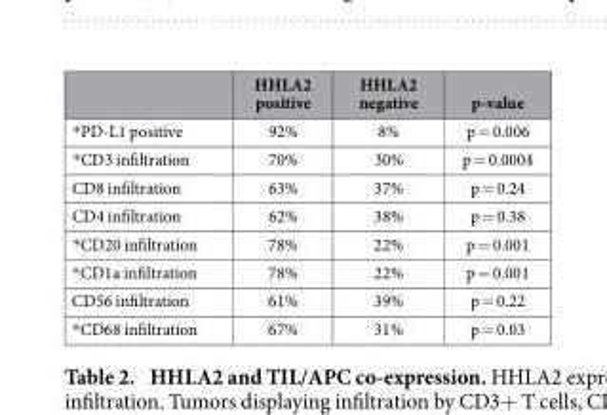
<table><thead><tr><td></td><td>HHLA2 positive</td><td>HHLA2 negative</td><td>p-value</td></tr></thead><tbody><tr><td>* PD-L1 positive</td><td>92%</td><td>8%</td><td>p = 0.006</td></tr><tr><td>* CD3 infiltration</td><td>70%</td><td>30%</td><td>p = 0.0004</td></tr><tr><td>CD8 infiltration</td><td>63%</td><td>37%</td><td>p = 0.24</td></tr><tr><td>CD4 infiltration</td><td>62%</td><td>38%</td><td>p = 0.38</td></tr><tr><td>* CD20 infiltration</td><td>78%</td><td>22%</td><td>p = 0.001</td></tr><tr><td>* CD1a infiltration</td><td>78%</td><td>22%</td><td>p = 0.001</td></tr><tr><td>CD56 infiltration</td><td>61%</td><td>39%</td><td>p = 0.22</td></tr><tr><td>* CD68 infiltration</td><td>67%</td><td>31%</td><td>p = 0.03</td></tr></tbody></table>